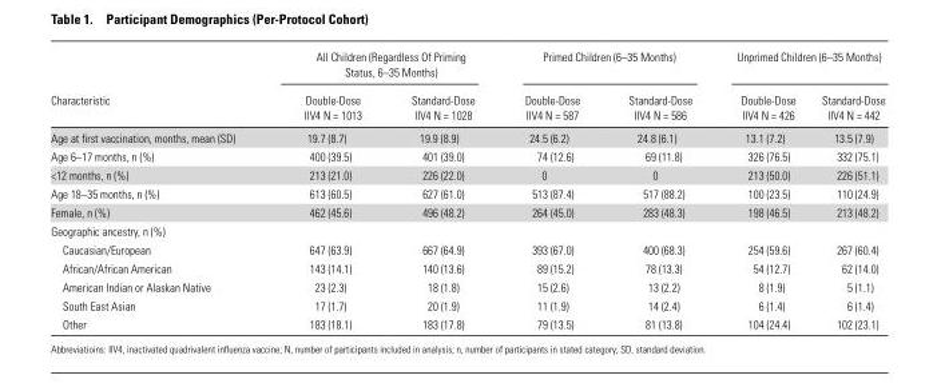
<table><thead><tr><td rowspan="2">Characteristic</td><td colspan="2">All Children (Regardless Of Priming Status, 6–35 Months)</td><td colspan="2">Primed Children (6–35 Months)</td><td colspan="2">Unprimed Children (6–35 Months)</td></tr><tr><td>Double-Dose IIV4 N = 1013</td><td>Standard-Dose IIV4 N = 1028</td><td>Double-Dose IIV4 N = 587</td><td>Standard-Dose IIV4 N = 586</td><td>Double-Dose IIV4 N = 426</td><td>Standard-Dose IIV4 N = 442</td></tr></thead><tbody><tr><td>Age at first vaccination, months, mean (SD)</td><td>19.7 (8.7)</td><td>19.9 (8.9)</td><td>24.5 (6.2)</td><td>24.8 (6.1)</td><td>13.1 (7.2)</td><td>13.5 (7.9)</td></tr><tr><td>Age 6–17 months, n (%)</td><td>400 (39.5)</td><td>401 (39.0)</td><td>74 (12.6)</td><td>69 (11.8)</td><td>326 (76.5)</td><td>332 (75.1)</td></tr><tr><td>&lt;12 months, n (%)</td><td>213 (21.0)</td><td>226 (22.0)</td><td>0</td><td>0</td><td>213 (50.0)</td><td>226 (51.1)</td></tr><tr><td>Age 18–35 months, n (%)</td><td>613 (60.5)</td><td>627 (61.0)</td><td>513 (87.4)</td><td>517 (88.2)</td><td>100 (23.5)</td><td>110 (24.9)</td></tr><tr><td>Female, n (%)</td><td>462 (45.6)</td><td>496 (48.2)</td><td>264 (45.0)</td><td>283 (48.3)</td><td>198 (46.5)</td><td>213 (48.2)</td></tr><tr><td colspan="7">Geographic ancestry, n (%)</td></tr><tr><td>Caucasian/European</td><td>647 (63.9)</td><td>667 (64.9)</td><td>393 (67.0)</td><td>400 (68.3)</td><td>254 (59.6)</td><td>267 (60.4)</td></tr><tr><td>African/African American</td><td>143 (14.1)</td><td>140 (13.6)</td><td>89 (15.2)</td><td>78 (13.3)</td><td>54 (12.7)</td><td>62 (14.0)</td></tr><tr><td>American Indian or Alaskan Native</td><td>23 (2.3)</td><td>18 (1.8)</td><td>15 (2.6)</td><td>13 (2.2)</td><td>8 (1.9)</td><td>5 (1.1)</td></tr><tr><td>South East Asian</td><td>17 (1.7)</td><td>20 (1.9)</td><td>11 (1.9)</td><td>14 (2.4)</td><td>6 (1.4)</td><td>6 (1.4)</td></tr><tr><td>Other</td><td>183 (18.1)</td><td>183 (17.8)</td><td>79 (13.5)</td><td>81 (13.8)</td><td>104 (24.4)</td><td>102 (23.1)</td></tr></tbody></table>